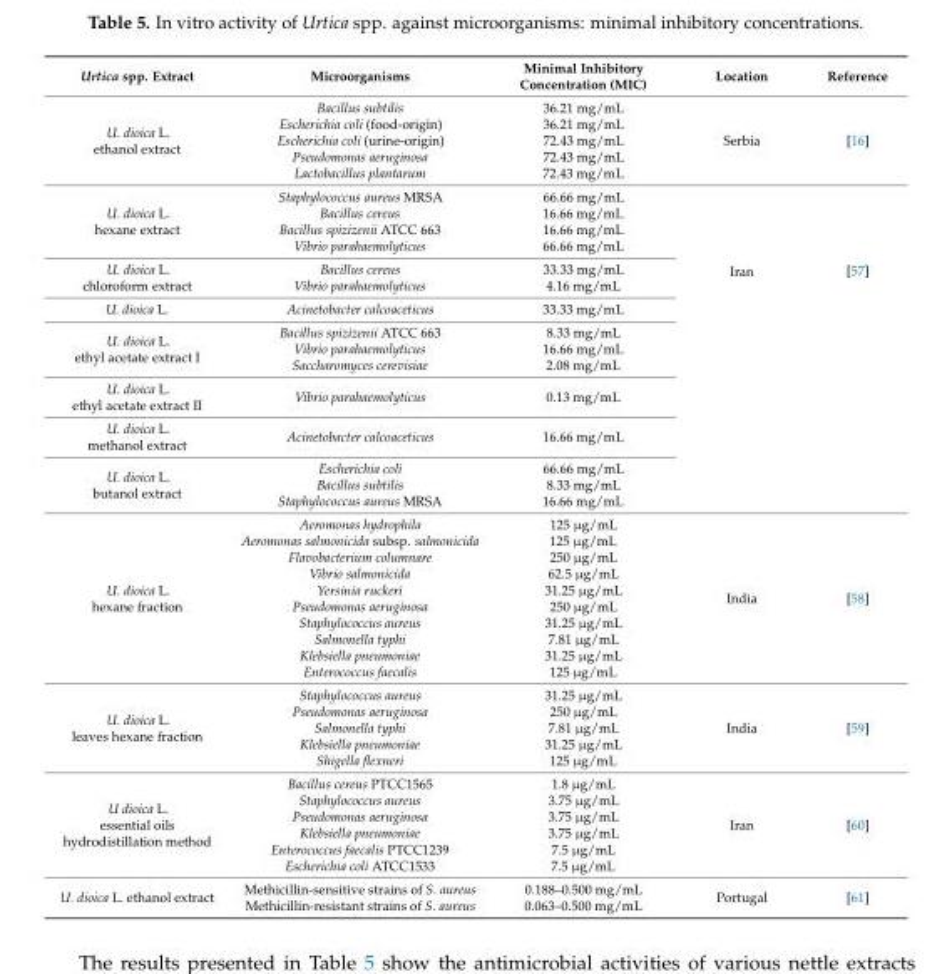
<table><thead><tr><td>Urtica spp. Extract</td><td>Microorganisms</td><td>Minimal Inhibitory Concentration (MIC)</td><td>Location</td><td>Reference</td></tr></thead><tbody><tr><td>U. dioica L. ethanol extract</td><td>Bacillus subtilis Escherichia coli (food-origin) Escherichia coli (urine-origin) Pseudomonas aeruginosa Lactobacillus plantarum</td><td>36.21 mg/mL 36.21 mg/mL 72.43 mg/mL 72.43 mg/mL 72.43 mg/mL</td><td>Serbia</td><td>[16]</td></tr><tr><td>U. dioica L. hexane extract</td><td>Staphylococcus aureus MRSA Bacillus cereus Bacillus spizizenii ATCC 663 Vibrio parahaemolyticus</td><td>66.66 mg/mL 16.66 mg/mL 16.66 mg/mL 66.66 mg/mL</td><td rowspan="7">Iran</td><td rowspan="7">[57]</td></tr><tr><td>U. dioica L. chloroform extract</td><td>Bacillus cereus Vibrio parahaemolyticus</td><td>33.33 mg/mL 4.16 mg/mL</td></tr><tr><td>U. dioica L.</td><td>Acinetobacter calcoaceticus</td><td>33.33 mg/mL</td></tr><tr><td>U. dioica L. ethyl acetate extract I</td><td>Bacillus spizizenii ATCC 663 Vibrio parahaemolyticus Saccharomyces cerevisiae</td><td>8.33 mg/mL 16.66 mg/mL 2.08 mg/mL</td></tr><tr><td>U. dioica L. ethyl acetate extract II</td><td>Vibrio parahaemolyticus</td><td>0.13 mg/mL</td></tr><tr><td>U. dioica L. methanol extract</td><td>Acinetobacter calcoaceticus</td><td>16.66 mg/mL</td></tr><tr><td>U. dioica L. butanol extract</td><td>Escherichia coli Bacillus subtilis Staphylococcus aureus MRSA</td><td>66.66 mg/mL 8.33 mg/mL 16.66 mg/mL</td></tr><tr><td>U. dioica L. hexane fraction</td><td>Aeromonas hydrophila Aeromonas salmonicida subsp. salmonicida Flavobacterium columnare Vibrio salmonicida Yersinia ruckeri Pseudomonas aeruginosa Staphylococcus aureus Salmonella typhi Klebsiella pneumoniae Enterococcus faecalis</td><td>125 µg/mL 125 µg/mL 250 µg/mL 62.5 µg/mL 31.25 µg/mL 250 µg/mL 31.25 µg/mL 7.81 µg/mL 31.25 µg/mL 125 µg/mL</td><td>India</td><td>[58]</td></tr><tr><td>U. dioica L. leaves hexane fraction</td><td>Staphylococcus aureus Pseudomonas aeruginosa Salmonella typhi Klebsiella pneumoniae Shigella flexneri</td><td>31.25 µg/mL 250 µg/mL 7.81 µg/mL 31.25 µg/mL 125 µg/mL</td><td>India</td><td>[59]</td></tr><tr><td>U dioica L. essential oils hydrodistillation method</td><td>Bacillus cereus PTCC1565 Staphylococcus aureus Pseudomonas aeruginosa Klebsiella pneumoniae Enterococcus faecalis PTCC1239 Escherichia coli ATCC1533</td><td>1.8 µg/mL 3.75 µg/mL 3.75 µg/mL 3.75 µg/mL 7.5 µg/mL 7.5 µg/mL</td><td>Iran</td><td>[60]</td></tr><tr><td>U. dioica L. ethanol extract</td><td>Methicillin-sensitive strains of S. aureus Methicillin-resistant strains of S. aureus</td><td>0.188–0.500 mg/mL 0.063–0.500 mg/mL</td><td>Portugal</td><td>[61]</td></tr></tbody></table>